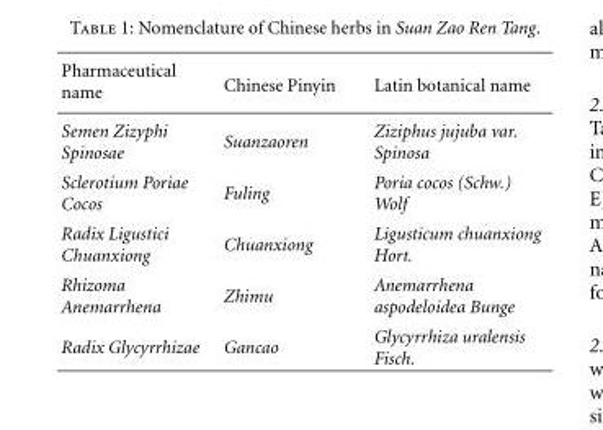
<table><thead><tr><td>Pharmaceutical name</td><td>Chinese Pinyin</td><td>Latin botanical name</td></tr></thead><tbody><tr><td>Semen Zizyphi Spinosae</td><td>Suanzaoren</td><td>Ziziphus jujuba var. Spinosa</td></tr><tr><td>Sclerotium Poriae Cocos</td><td>Fuling</td><td>Poria cocos (Schw.) Wolf</td></tr><tr><td>Radix Ligustici Chuanxiong</td><td>Chuanxiong</td><td>Ligusticum chuanxiong Hort.</td></tr><tr><td>Rhizoma Anemarrhena</td><td>Zhimu</td><td>Anemarrhena aspodeloidea Bunge</td></tr><tr><td>Radix Glycyrrhizae</td><td>Gancao</td><td>Glycyrrhiza uralensis Fisch.</td></tr></tbody></table>